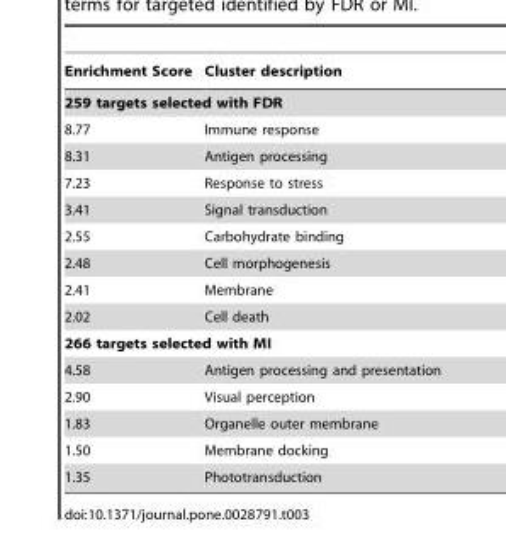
<table><thead><tr><td>Enrichment Score</td><td>Cluster description</td></tr></thead><tbody><tr><td colspan="2">259 targets selected with FDR</td></tr><tr><td>8.77</td><td>Immune response</td></tr><tr><td>8.31</td><td>Antigen processing</td></tr><tr><td>7.23</td><td>Response to stress</td></tr><tr><td>3.41</td><td>Signal transduction</td></tr><tr><td>2.55</td><td>Carbohydrate binding</td></tr><tr><td>2.48</td><td>Cell morphogenesis</td></tr><tr><td>2.41</td><td>Membrane</td></tr><tr><td>2.02</td><td>Cell death</td></tr><tr><td colspan="2">266 targets selected with MI</td></tr><tr><td>4.58</td><td>Antigen processing and presentation</td></tr><tr><td>2.90</td><td>Visual perception</td></tr><tr><td>1.83</td><td>Organelle outer membrane</td></tr><tr><td>1.50</td><td>Membrane docking</td></tr><tr><td>1.35</td><td>Phototransduction</td></tr></tbody></table>